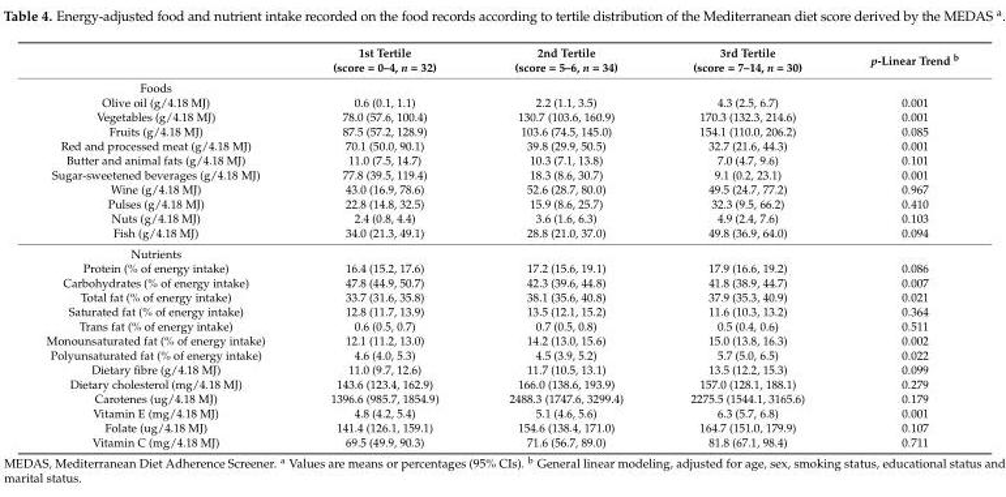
<table><thead><tr><td></td><td>1st Tertile (score = 0–4, n = 32)</td><td>2nd Tertile (score = 5–6, n = 34)</td><td>3rd Tertile (score = 7–14, n = 30)</td><td>p-Linear Trend <sup>b</sup></td></tr></thead><tbody><tr><td colspan="5">Foods</td></tr><tr><td>Olive oil (g/4.18 MJ)</td><td>0.6 (0.1, 1.1)</td><td>2.2 (1.1, 3.5)</td><td>4.3 (2.5, 6.7)</td><td>0.001</td></tr><tr><td>Vegetables (g/4.18 MJ)</td><td>78.0 (57.6, 100.4)</td><td>130.7 (103.6, 160.9)</td><td>170.3 (132.3, 214.6)</td><td>0.001</td></tr><tr><td>Fruits (g/4.18 MJ)</td><td>87.5 (57.2, 128.9)</td><td>103.6 (74.5, 145.0)</td><td>154.1 (110.0, 206.2)</td><td>0.085</td></tr><tr><td>Red and processed meat (g/4.18 MJ)</td><td>70.1 (50.0, 90.1)</td><td>39.8 (29.9, 50.5)</td><td>32.7 (21.6, 44.3)</td><td>0.001</td></tr><tr><td>Butter and animal fats (g/4.18 MJ)</td><td>11.0 (7.5, 14.7)</td><td>10.3 (7.1, 13.8)</td><td>7.0 (4.7, 9.6)</td><td>0.101</td></tr><tr><td>Sugar-sweetened beverages (g/4.18 MJ)</td><td>77.8 (39.5, 119.4)</td><td>18.3 (8.6, 30.7)</td><td>9.1 (0.2, 23.1)</td><td>0.001</td></tr><tr><td>Wine (g/4.18 MJ)</td><td>43.0 (16.9, 78.6)</td><td>52.6 (28.7, 80.0)</td><td>49.5 (24.7, 77.2)</td><td>0.967</td></tr><tr><td>Pulses (g/4.18 MJ)</td><td>22.8 (14.8, 32.5)</td><td>15.9 (8.6, 25.7)</td><td>32.3 (9.5, 66.2)</td><td>0.410</td></tr><tr><td>Nuts (g/4.18 MJ)</td><td>2.4 (0.8, 4.4)</td><td>3.6 (1.6, 6.3)</td><td>4.9 (2.4, 7.6)</td><td>0.103</td></tr><tr><td>Fish (g/4.18 MJ)</td><td>34.0 (21.3, 49.1)</td><td>28.8 (21.0, 37.0)</td><td>49.8 (36.9, 64.0)</td><td>0.094</td></tr><tr><td colspan="5">Nutrients</td></tr><tr><td>Protein (% of energy intake)</td><td>16.4 (15.2, 17.6)</td><td>17.2 (15.6, 19.1)</td><td>17.9 (16.6, 19.2)</td><td>0.086</td></tr><tr><td>Carbohydrates (% of energy intake)</td><td>47.8 (44.9, 50.7)</td><td>42.3 (39.6, 44.8)</td><td>41.8 (38.9, 44.7)</td><td>0.007</td></tr><tr><td>Total fat (% of energy intake)</td><td>33.7 (31.6, 35.8)</td><td>38.1 (35.6, 40.8)</td><td>37.9 (35.3, 40.9)</td><td>0.021</td></tr><tr><td>Saturated fat (% of energy intake)</td><td>12.8 (11.7, 13.9)</td><td>13.5 (12.1, 15.2)</td><td>11.6 (10.3, 13.2)</td><td>0.364</td></tr><tr><td>Trans fat (% of energy intake)</td><td>0.6 (0.5, 0.7)</td><td>0.7 (0.5, 0.8)</td><td>0.5 (0.4, 0.6)</td><td>0.511</td></tr><tr><td>Monounsaturated fat (% of energy intake)</td><td>12.1 (11.2, 13.0)</td><td>14.2 (13.0, 15.6)</td><td>15.0 (13.8, 16.3)</td><td>0.002</td></tr><tr><td>Polyunsaturated fat (% of energy intake)</td><td>4.6 (4.0, 5.3)</td><td>4.5 (3.9, 5.2)</td><td>5.7 (5.0, 6.5)</td><td>0.022</td></tr><tr><td>Dietary fibre (g/4.18 MJ)</td><td>11.0 (9.7, 12.6)</td><td>11.7 (10.5, 13.1)</td><td>13.5 (12.2, 15.3)</td><td>0.099</td></tr><tr><td>Dietary cholesterol (mg/4.18 MJ)</td><td>143.6 (123.4, 162.9)</td><td>166.0 (138.6, 193.9)</td><td>157.0 (128.1, 188.1)</td><td>0.279</td></tr><tr><td>Carotenes (ug/4.18 MJ)</td><td>1396.6 (985.7, 1854.9)</td><td>2488.3 (1747.6, 3299.4)</td><td>2275.5 (1544.1, 3165.6)</td><td>0.179</td></tr><tr><td>Vitamin E (mg/4.18 MJ)</td><td>4.8 (4.2, 5.4)</td><td>5.1 (4.6, 5.6)</td><td>6.3 (5.7, 6.8)</td><td>0.001</td></tr><tr><td>Folate (ug/4.18 MJ)</td><td>141.4 (126.1, 159.1)</td><td>154.6 (138.4, 171.0)</td><td>164.7 (151.0, 179.9)</td><td>0.107</td></tr><tr><td>Vitamin C (mg/4.18 MJ)</td><td>69.5 (49.9, 90.3)</td><td>71.6 (56.7, 89.0)</td><td>81.8 (67.1, 98.4)</td><td>0.711</td></tr></tbody></table>